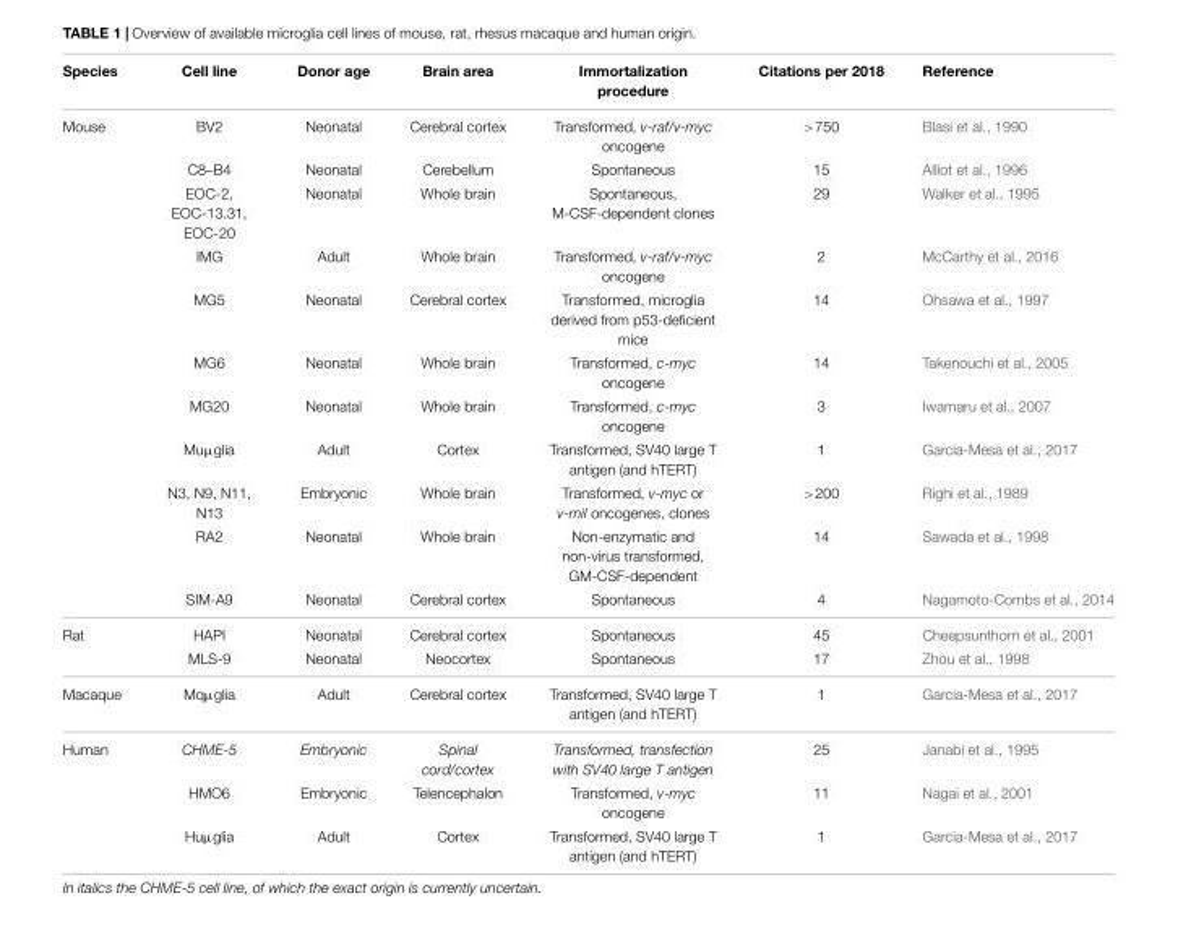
<table><thead><tr><td>Species</td><td>Cell line</td><td>Donor age</td><td>Brain area</td><td>Immortalization procedure</td><td>Citations per 2018</td><td>Reference</td></tr></thead><tbody><tr><td rowspan="11">Mouse</td><td>BV2</td><td>Neonatal</td><td>Cerebral cortex</td><td>Transformed, v-raf/v-myc oncogene</td><td>&gt;750</td><td>Blasi et al., 1990</td></tr><tr><td>C8–B4</td><td>Neonatal</td><td>Cerebellum</td><td>Spontaneous</td><td>15</td><td>Alliot et al., 1996</td></tr><tr><td>EOC-2, EOC-13.31, EOC-20</td><td>Neonatal</td><td>Whole brain</td><td>Spontaneous, M-CSF-dependent clones</td><td>29</td><td>Walker et al., 1995</td></tr><tr><td>IMG</td><td>Adult</td><td>Whole brain</td><td>Transformed, v-raf/v-myc oncogene</td><td>2</td><td>McCarthy et al., 2016</td></tr><tr><td>MG5</td><td>Neonatal</td><td>Cerebral cortex</td><td>Transformed, microglia derived from p53-deficient mice</td><td>14</td><td>Ohsawa et al., 1997</td></tr><tr><td>MG6</td><td>Neonatal</td><td>Whole brain</td><td>Transformed, c-myc oncogene</td><td>14</td><td>Takenouchi et al., 2005</td></tr><tr><td>MG20</td><td>Neonatal</td><td>Whole brain</td><td>Transformed, c-myc oncogene</td><td>3</td><td>Iwamaru et al., 2007</td></tr><tr><td>Muµglia</td><td>Adult</td><td>Cortex</td><td>Transformed, SV40 large T antigen (and hTERT)</td><td>1</td><td>Garcia-Mesa et al., 2017</td></tr><tr><td>N3, N9, N11, N13</td><td>Embryonic</td><td>Whole brain</td><td>Transformed, v-myc or v-mil oncogenes, clones</td><td>&gt;200</td><td>Righi et al., 1989</td></tr><tr><td>RA2</td><td>Neonatal</td><td>Whole brain</td><td>Non-enzymatic and non-virus transformed, GM-CSF-dependent</td><td>14</td><td>Sawada et al., 1998</td></tr><tr><td>SIM-A9</td><td>Neonatal</td><td>Cerebral cortex</td><td>Spontaneous</td><td>4</td><td>Nagamoto-Combs et al., 2014</td></tr><tr><td rowspan="2">Rat</td><td>HAPI</td><td>Neonatal</td><td>Cerebral cortex</td><td>Spontaneous</td><td>45</td><td>Cheepsunthorn et al., 2001</td></tr><tr><td>MLS-9</td><td>Neonatal</td><td>Neocortex</td><td>Spontaneous</td><td>17</td><td>Zhou et al., 1998</td></tr><tr><td>Macaque</td><td>Mqµglia</td><td>Adult</td><td>Cerebral cortex</td><td>Transformed, SV40 large T antigen (and hTERT)</td><td>1</td><td>Garcia-Mesa et al., 2017</td></tr><tr><td rowspan="3">Human</td><td>CHME-5</td><td>Embryonic</td><td>Spinal cord/cortex</td><td>Transformed, transfection with SV40 large T antigen</td><td>25</td><td>Janabi et al., 1995</td></tr><tr><td>HMO6</td><td>Embryonic</td><td>Telencephalon</td><td>Transformed, v-myc oncogene</td><td>11</td><td>Nagai et al., 2001</td></tr><tr><td>Huµglia</td><td>Adult</td><td>Cortex</td><td>Transformed, SV40 large T antigen (and hTERT)</td><td>1</td><td>Garcia-Mesa et al., 2017</td></tr></tbody></table>